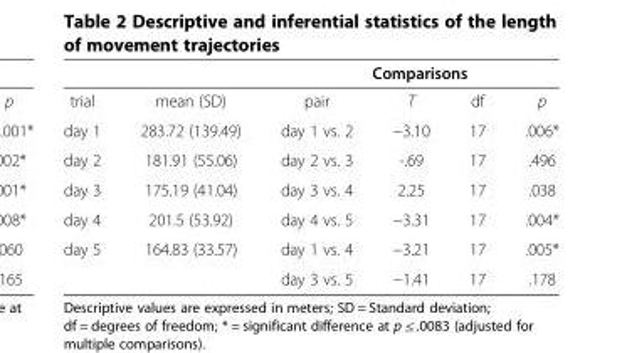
<table><thead><tr><td rowspan="2">trial</td><td rowspan="2">mean (SD)</td><td colspan="4">Comparisons</td></tr><tr><td>pair</td><td>T</td><td>df</td><td>p</td></tr></thead><tbody><tr><td>day 1</td><td>283.72 (139.49)</td><td>day 1 vs. 2</td><td>−3.10</td><td>17</td><td>.006*</td></tr><tr><td>day 2</td><td>181.91 (55.06)</td><td>day 2 vs. 3</td><td>-.69</td><td>17</td><td>.496</td></tr><tr><td>day 3</td><td>175.19 (41.04)</td><td>day 3 vs. 4</td><td>2.25</td><td>17</td><td>.038</td></tr><tr><td>day 4</td><td>201.5 (53.92)</td><td>day 4 vs. 5</td><td>−3.31</td><td>17</td><td>.004*</td></tr><tr><td rowspan="2">day 5</td><td>164.83 (33.57)</td><td>day 1 vs. 4</td><td>−3.21</td><td>17</td><td>.005*</td></tr><tr><td></td><td>day 3 vs. 5</td><td>−1.41</td><td>17</td><td>.178</td></tr></tbody></table>